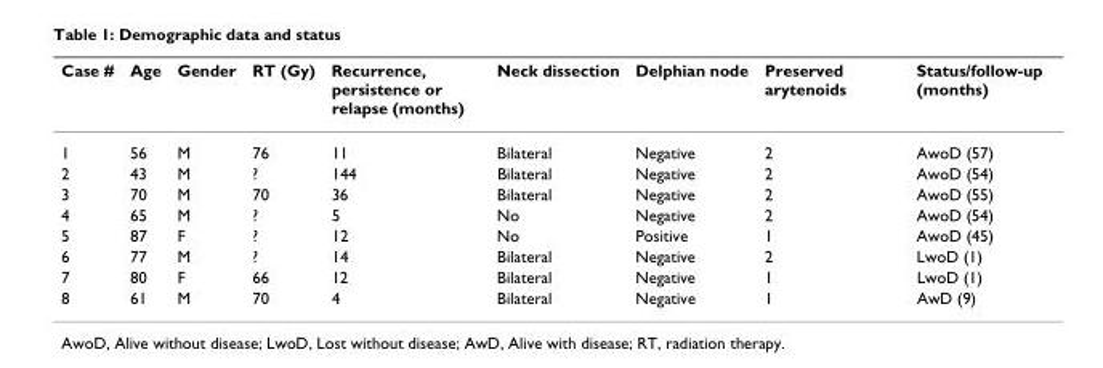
<table><thead><tr><td>Case #</td><td>Age</td><td>Gender</td><td>RT (Gy)</td><td>Recurrence, persistence or relapse (months)</td><td>Neck dissection</td><td>Delphian node</td><td>Preserved arytenoids</td><td>Status/follow-up (months)</td></tr></thead><tbody><tr><td>1</td><td>56</td><td>M</td><td>76</td><td>11</td><td>Bilateral</td><td>Negative</td><td>2</td><td>AwoD (57)</td></tr><tr><td>2</td><td>43</td><td>M</td><td>?</td><td>144</td><td>Bilateral</td><td>Negative</td><td>2</td><td>AwoD (54)</td></tr><tr><td>3</td><td>70</td><td>M</td><td>70</td><td>36</td><td>Bilateral</td><td>Negative</td><td>2</td><td>AwoD (55)</td></tr><tr><td>4</td><td>65</td><td>M</td><td>?</td><td>5</td><td>No</td><td>Negative</td><td>2</td><td>AwoD (54)</td></tr><tr><td>5</td><td>87</td><td>F</td><td>?</td><td>12</td><td>No</td><td>Positive</td><td>1</td><td>AwoD (45)</td></tr><tr><td>6</td><td>77</td><td>M</td><td>?</td><td>14</td><td>Bilateral</td><td>Negative</td><td>2</td><td>LwoD (1)</td></tr><tr><td>7</td><td>80</td><td>F</td><td>66</td><td>12</td><td>Bilateral</td><td>Negative</td><td>1</td><td>LwoD (1)</td></tr><tr><td>8</td><td>61</td><td>M</td><td>70</td><td>4</td><td>Bilateral</td><td>Negative</td><td>1</td><td>AwD (9)</td></tr></tbody></table>